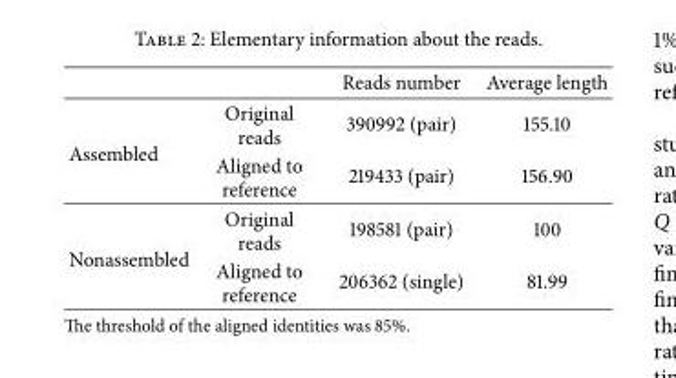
<table><thead><tr><td></td><td></td><td>Reads number</td><td>Average length</td></tr></thead><tbody><tr><td rowspan="2">Assembled</td><td>Original reads</td><td>390992 (pair)</td><td>155.10</td></tr><tr><td>Aligned to reference</td><td>219433 (pair)</td><td>156.90</td></tr><tr><td rowspan="2">Nonassembled</td><td>Original reads</td><td>198581 (pair)</td><td>100</td></tr><tr><td>Aligned to reference</td><td>206362 (single)</td><td>81.99</td></tr></tbody></table>